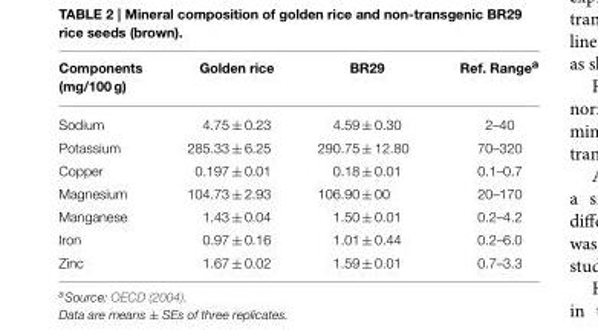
<table><thead><tr><td>Components (mg/100 g)</td><td>Golden rice</td><td>BR29</td><td>Ref. Range<sup>a</sup></td></tr></thead><tbody><tr><td>Sodium</td><td>4.75 ± 0.23</td><td>4.59 ± 0.30</td><td>2–40</td></tr><tr><td>Potassium</td><td>285.33 ± 6.25</td><td>290.75 ± 12.80</td><td>70–320</td></tr><tr><td>Copper</td><td>0.197 ± 0.01</td><td>0.18 ± 0.01</td><td>0.1–0.7</td></tr><tr><td>Magnesium</td><td>104.73 ± 2.93</td><td>106.90 ± 00</td><td>20–170</td></tr><tr><td>Manganese</td><td>1.43 ± 0.04</td><td>1.50 ± 0.01</td><td>0.2–4.2</td></tr><tr><td>Iron</td><td>0.97 ± 0.16</td><td>1.01 ± 0.44</td><td>0.2–6.0</td></tr><tr><td>Zinc</td><td>1.67 ± 0.02</td><td>1.59 ± 0.01</td><td>0.7–3.3</td></tr></tbody></table>